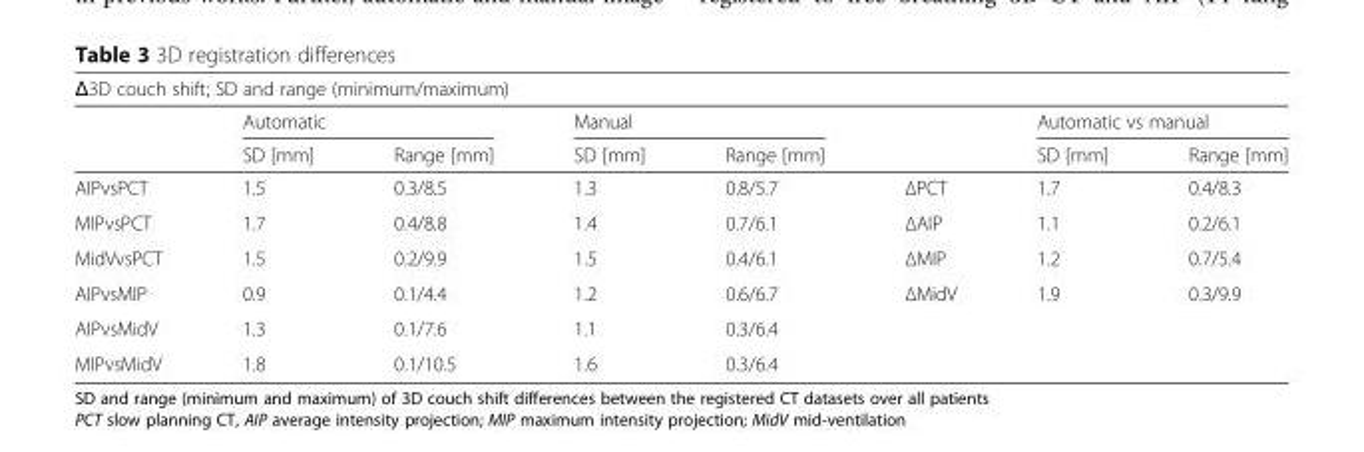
<table><thead><tr><td colspan="8">Δ3D couch shift; SD and range (minimum/maximum)</td></tr><tr><td rowspan="2"></td><td colspan="2">Automatic</td><td colspan="2">Manual</td><td rowspan="2"></td><td colspan="2">Automatic vs manual</td></tr><tr><td>SD [mm]</td><td>Range [mm]</td><td>SD [mm]</td><td>Range [mm]</td><td>SD [mm]</td><td>Range [mm]</td></tr></thead><tbody><tr><td>AIPvsPCT</td><td>1.5</td><td>0.3/8.5</td><td>1.3</td><td>0.8/5.7</td><td>ΔPCT</td><td>1.7</td><td>0.4/8.3</td></tr><tr><td>MIPvsPCT</td><td>1.7</td><td>0.4/8.8</td><td>1.4</td><td>0.7/6.1</td><td>ΔAIP</td><td>1.1</td><td>0.2/6.1</td></tr><tr><td>MidVvsPCT</td><td>1.5</td><td>0.2/9.9</td><td>1.5</td><td>0.4/6.1</td><td>ΔMIP</td><td>1.2</td><td>0.7/5.4</td></tr><tr><td>AIPvsMIP</td><td>0.9</td><td>0.1/4.4</td><td>1.2</td><td>0.6/6.7</td><td>ΔMidV</td><td>1.9</td><td>0.3/9.9</td></tr><tr><td>AIPvsMidV</td><td>1.3</td><td>0.1/7.6</td><td>1.1</td><td>0.3/6.4</td><td></td><td></td><td></td></tr><tr><td>MIPvsMidV</td><td>1.8</td><td>0.1/10.5</td><td>1.6</td><td>0.3/6.4</td><td></td><td></td><td></td></tr></tbody></table>